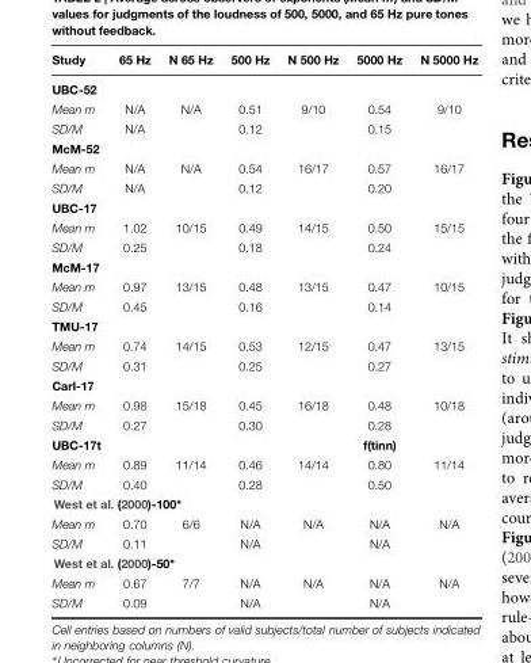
<table><thead><tr><td>Study</td><td>65 Hz</td><td>N 65 Hz</td><td>500 Hz</td><td>N 500 Hz</td><td>5000 Hz</td><td>N 5000 Hz</td></tr></thead><tbody><tr><td colspan="7">UBC-52</td></tr><tr><td>Mean m</td><td>N/A</td><td>N/A</td><td>0.51</td><td>9/10</td><td>0.54</td><td>9/10</td></tr><tr><td>SD/M</td><td>N/A</td><td></td><td>0.12</td><td></td><td>0.15</td><td></td></tr><tr><td colspan="7">McM-52</td></tr><tr><td>Mean m</td><td>N/A</td><td>N/A</td><td>0.54</td><td>16/17</td><td>0.57</td><td>16/17</td></tr><tr><td>SD/M</td><td>N/A</td><td></td><td>0.12</td><td></td><td>0.20</td><td></td></tr><tr><td colspan="7">UBC-17</td></tr><tr><td>Mean m</td><td>1.02</td><td>10/15</td><td>0.49</td><td>14/15</td><td>0.50</td><td>15/15</td></tr><tr><td>SD/M</td><td>0.25</td><td></td><td>0.18</td><td></td><td>0.24</td><td></td></tr><tr><td colspan="7">McM-17</td></tr><tr><td>Mean m</td><td>0.97</td><td>13/15</td><td>0.48</td><td>13/15</td><td>0.47</td><td>10/15</td></tr><tr><td>SD/M</td><td>0.45</td><td></td><td>0.16</td><td></td><td>0.14</td><td></td></tr><tr><td colspan="7">TMU-17</td></tr><tr><td>Mean m</td><td>0.74</td><td>14/15</td><td>0.53</td><td>12/15</td><td>0.47</td><td>13/15</td></tr><tr><td>SD/M</td><td>0.31</td><td></td><td>0.25</td><td></td><td>0.27</td><td></td></tr><tr><td colspan="7">Carl-17</td></tr><tr><td>Mean m</td><td>0.98</td><td>15/18</td><td>0.45</td><td>16/18</td><td>0.48</td><td>10/18</td></tr><tr><td>SD/M</td><td>0.27</td><td></td><td>0.30</td><td></td><td>0.28</td><td></td></tr><tr><td>UBC-17t</td><td></td><td></td><td></td><td></td><td>f(tinn)</td><td></td></tr><tr><td>Mean m</td><td>0.89</td><td>11/14</td><td>0.46</td><td>14/14</td><td>0.80</td><td>11/14</td></tr><tr><td>SD/M</td><td>0.40</td><td></td><td>0.28</td><td></td><td>0.50</td><td></td></tr><tr><td colspan="7">West et al. (2000)-100∗</td></tr><tr><td>Mean m</td><td>0.70</td><td>6/6</td><td>N/A</td><td>N/A</td><td>N/A</td><td>N/A</td></tr><tr><td>SD/M</td><td>0.11</td><td></td><td>N/A</td><td></td><td>N/A</td><td></td></tr><tr><td colspan="7">West et al. (2000)-50∗</td></tr><tr><td>Mean m</td><td>0.67</td><td>7/7</td><td>N/A</td><td>N/A</td><td>N/A</td><td>N/A</td></tr><tr><td>SD/M</td><td>0.09</td><td></td><td>N/A</td><td></td><td>N/A</td><td></td></tr></tbody></table>